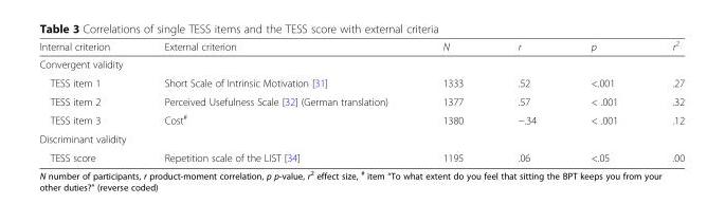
<table><thead><tr><td>Internal criterion</td><td>External criterion</td><td>N</td><td>r</td><td>p</td><td>r<sup>2</sup></td></tr></thead><tbody><tr><td colspan="6">Convergent validity</td></tr><tr><td>TESS item 1</td><td>Short Scale of Intrinsic Motivation [31]</td><td>1333</td><td>.52</td><td>&lt;.001</td><td>.27</td></tr><tr><td>TESS item 2</td><td>Perceived Usefulness Scale [32] (German translation)</td><td>1377</td><td>.57</td><td>&lt; .001</td><td>.32</td></tr><tr><td>TESS item 3</td><td>Cost<sup>#</sup></td><td>1380</td><td>−.34</td><td>&lt; .001</td><td>.12</td></tr><tr><td colspan="6">Discriminant validity</td></tr><tr><td>TESS score</td><td>Repetition scale of the LIST [34]</td><td>1195</td><td>.06</td><td>&lt;.05</td><td>.00</td></tr></tbody></table>